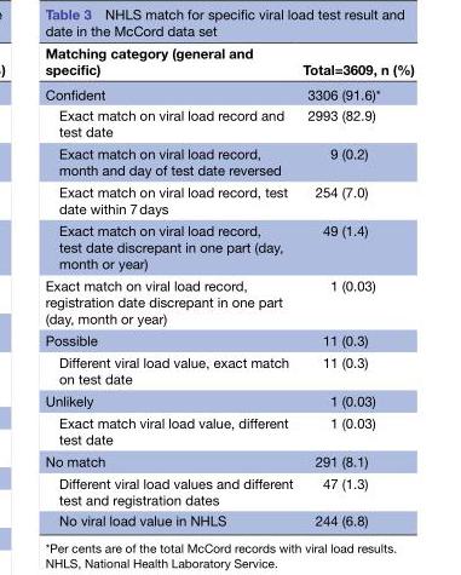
<table><thead><tr><td>Matching category (general and specific)</td><td>Total=3609, n (%)</td></tr></thead><tbody><tr><td>Confident</td><td>3306 (91.6)*</td></tr><tr><td>Exact match on viral load record and test date</td><td>2993 (82.9)</td></tr><tr><td>Exact match on viral load record, month and day of test date reversed</td><td>9 (0.2)</td></tr><tr><td>Exact match on viral load record, test date within 7 days</td><td>254 (7.0)</td></tr><tr><td>Exact match on viral load record, test date discrepant in one part (day, month or year)</td><td>49 (1.4)</td></tr><tr><td>Exact match on viral load record, registration date discrepant in one part (day, month or year)</td><td>1 (0.03)</td></tr><tr><td>Possible</td><td>11 (0.3)</td></tr><tr><td>Different viral load value, exact match on test date</td><td>11 (0.3)</td></tr><tr><td>Unlikely</td><td>1 (0.03)</td></tr><tr><td>Exact match viral load value, different test date</td><td>1 (0.03)</td></tr><tr><td>No match</td><td>291 (8.1)</td></tr><tr><td>Different viral load values and different test and registration dates</td><td>47 (1.3)</td></tr><tr><td>No viral load value in NHLS</td><td>244 (6.8)</td></tr></tbody></table>